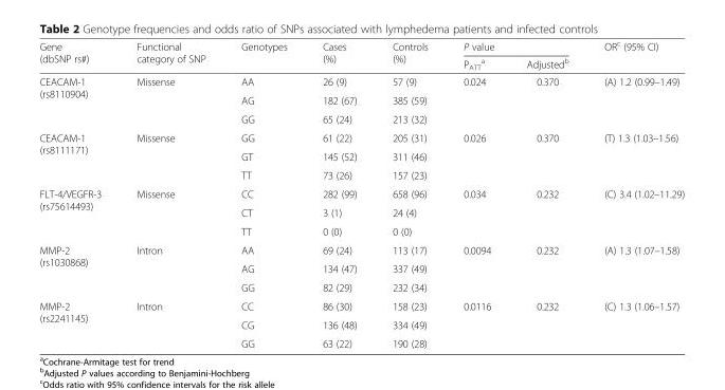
<table><thead><tr><td rowspan="2">Gene (dbSNP rs#)</td><td rowspan="2">Functional category of SNP</td><td rowspan="2">Genotypes</td><td rowspan="2">Cases (%)</td><td rowspan="2">Controls (%)</td><td colspan="2">P value</td><td rowspan="2">OR<sup>c</sup> (95% CI)</td></tr><tr><td>P<sub>ATT</sub> <sup>a</sup></td><td>Adjusted<sup>b</sup></td></tr></thead><tbody><tr><td rowspan="3">CEACAM-1 (rs8110904)</td><td rowspan="3">Missense</td><td>AA</td><td>26 (9)</td><td>57 (9)</td><td rowspan="3">0.024</td><td rowspan="3">0.370</td><td rowspan="3">(A) 1.2 (0.99–1.49)</td></tr><tr><td>AG</td><td>182 (67)</td><td>385 (59)</td></tr><tr><td>GG</td><td>65 (24)</td><td>213 (32)</td></tr><tr><td rowspan="3">CEACAM-1 (rs8111171)</td><td rowspan="3">Missense</td><td>GG</td><td>61 (22)</td><td>205 (31)</td><td rowspan="3">0.026</td><td rowspan="3">0.370</td><td rowspan="3">(T) 1.3 (1.03–1.56)</td></tr><tr><td>GT</td><td>145 (52)</td><td>311 (46)</td></tr><tr><td>TT</td><td>73 (26)</td><td>157 (23)</td></tr><tr><td rowspan="3">FLT-4/VEGFR-3 (rs75614493)</td><td rowspan="3">Missense</td><td>CC</td><td>282 (99)</td><td>658 (96)</td><td rowspan="3">0.034</td><td rowspan="3">0.232</td><td rowspan="3">(C) 3.4 (1.02–11.29)</td></tr><tr><td>CT</td><td>3 (1)</td><td>24 (4)</td></tr><tr><td>TT</td><td>0 (0)</td><td>0 (0)</td></tr><tr><td rowspan="3">MMP-2 (rs1030868)</td><td rowspan="3">Intron</td><td>AA</td><td>69 (24)</td><td>113 (17)</td><td rowspan="3">0.0094</td><td rowspan="3">0.232</td><td rowspan="3">(A) 1.3 (1.07–1.58)</td></tr><tr><td>AG</td><td>134 (47)</td><td>337 (49)</td></tr><tr><td>GG</td><td>82 (29)</td><td>232 (34)</td></tr><tr><td rowspan="3">MMP-2 (rs2241145)</td><td rowspan="3">Intron</td><td>CC</td><td>86 (30)</td><td>158 (23)</td><td rowspan="3">0.0116</td><td rowspan="3">0.232</td><td rowspan="3">(C) 1.3 (1.06–1.57)</td></tr><tr><td>CG</td><td>136 (48)</td><td>334 (49)</td></tr><tr><td>GG</td><td>63 (22)</td><td>190 (28)</td></tr></tbody></table>